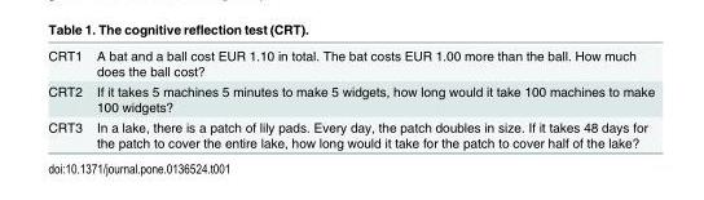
<table><tbody><tr><td>CRT1</td><td>A bat and a ball cost EUR 1.10 in total. The bat costs EUR 1.00 more than the ball. How much does the ball cost?</td></tr><tr><td>CRT2</td><td>If it takes 5 machines 5 minutes to make 5 widgets, how long would it take 100 machines to make 100 widgets?</td></tr><tr><td>CRT3</td><td>In a lake, there is a patch of lily pads. Every day, the patch doubles in size. If it takes 48 days for the patch to cover the entire lake, how long would it take for the patch to cover half of the lake?</td></tr></tbody></table>